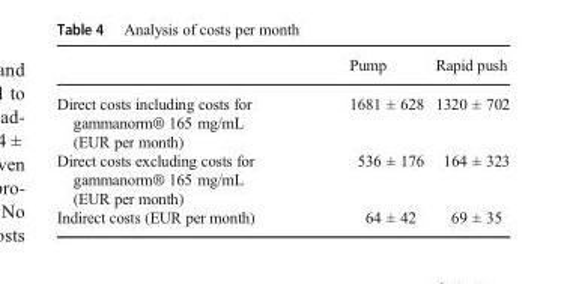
<table><thead><tr><td></td><td>Pump</td><td>Rapid push</td></tr></thead><tbody><tr><td>Direct costs including costs for gammanorm® 165 mg/mL (EUR per month)</td><td>1681 ± 628</td><td>1320 ± 702</td></tr><tr><td>Direct costs excluding costs for gammanorm® 165 mg/mL (EUR per month)</td><td>536 ± 176</td><td>164 ± 323</td></tr><tr><td>Indirect costs (EUR per month)</td><td>64 ± 42</td><td>69 ± 35</td></tr></tbody></table>